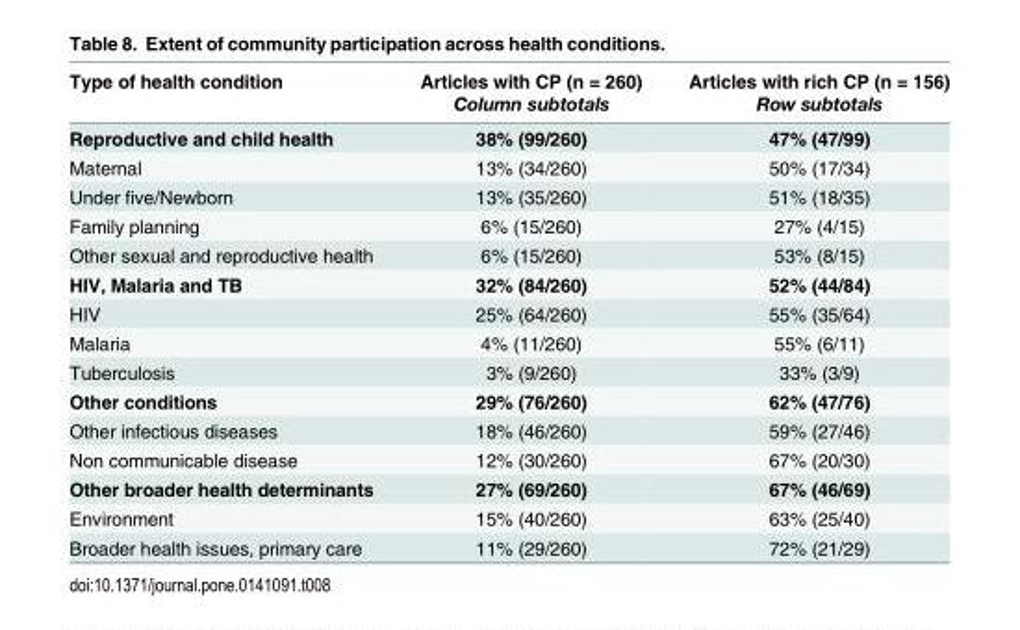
<table><thead><tr><td rowspan="2">Type of health condition</td><td rowspan="2">Articles with CP (n = 260) Column subtotals</td><td rowspan="2">Articles with rich CP (n = 156) Row subtotals</td></tr><tr></tr></thead><tbody><tr><td>Reproductive and child health</td><td>38% (99/260)</td><td>47% (47/99)</td></tr><tr><td>Maternal</td><td>13% (34/260)</td><td>50% (17/34)</td></tr><tr><td>Under five/Newborn</td><td>13% (35/260)</td><td>51% (18/35)</td></tr><tr><td>Family planning</td><td>6% (15/260)</td><td>27% (4/15)</td></tr><tr><td>Other sexual and reproductive health</td><td>6% (15/260)</td><td>53% (8/15)</td></tr><tr><td>HIV, Malaria and TB</td><td>32% (84/260)</td><td>52% (44/84)</td></tr><tr><td>HIV</td><td>25% (64/260)</td><td>55% (35/64)</td></tr><tr><td>Malaria</td><td>4% (11/260)</td><td>55% (6/11)</td></tr><tr><td>Tuberculosis</td><td>3% (9/260)</td><td>33% (3/9)</td></tr><tr><td>Other conditions</td><td>29% (76/260)</td><td>62% (47/76)</td></tr><tr><td>Other infectious diseases</td><td>18% (46/260)</td><td>59% (27/46)</td></tr><tr><td>Non communicable disease</td><td>12% (30/260)</td><td>67% (20/30)</td></tr><tr><td>Other broader health determinants</td><td>27% (69/260)</td><td>67% (46/69)</td></tr><tr><td>Environment</td><td>15% (40/260)</td><td>63% (25/40)</td></tr><tr><td>Broader health issues, primary care</td><td>11% (29/260)</td><td>72% (21/29)</td></tr></tbody></table>